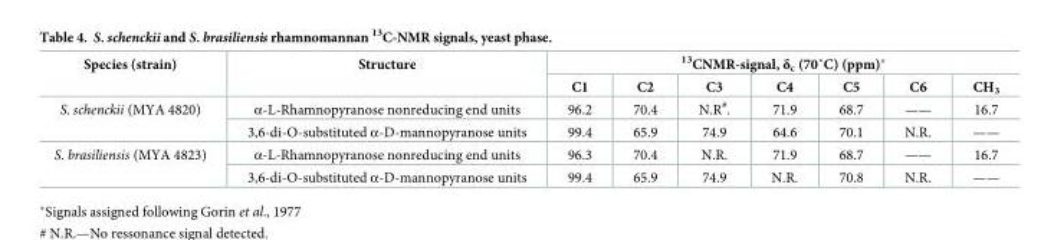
<table><thead><tr><td rowspan="2">Species (strain)</td><td rowspan="2">Structure</td><td colspan="7">13CNMR-signal, δc (70˚C) (ppm)*</td></tr><tr><td>C1</td><td>C2</td><td>C3</td><td>C4</td><td>C5</td><td>C6</td><td>CH<sub>3</sub></td></tr></thead><tbody><tr><td rowspan="2">S. schenckii (MYA 4820)</td><td>α-L-Rhamnopyranose nonreducing end units</td><td>96.2</td><td>70.4</td><td>N.R<sup>#</sup>.</td><td>71.9</td><td>68.7</td><td>——</td><td>16.7</td></tr><tr><td>3,6-di-O-substituted α-D-mannopyranose units</td><td>99.4</td><td>65.9</td><td>74.9</td><td>64.6</td><td>70.1</td><td>N.R.</td><td>——</td></tr><tr><td rowspan="2">S. brasiliensis (MYA 4823)</td><td>α-L-Rhamnopyranose nonreducing end units</td><td>96.3</td><td>70.4</td><td>N.R.</td><td>71.9</td><td>68.7</td><td>——</td><td>16.7</td></tr><tr><td>3,6-di-O-substituted α-D-mannopyranose units</td><td>99.4</td><td>65.9</td><td>74.9</td><td>N.R.</td><td>70.8</td><td>N.R.</td><td>——</td></tr></tbody></table>